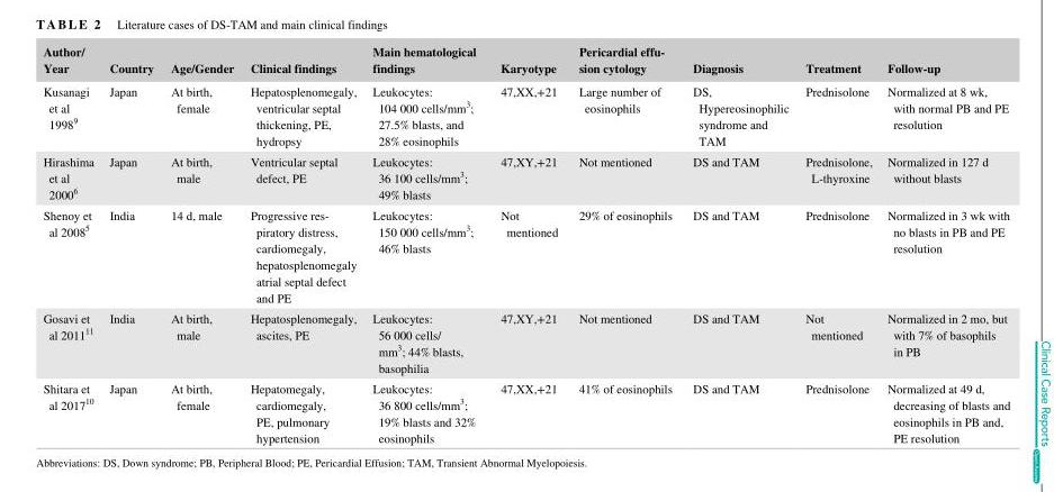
<table><thead><tr><td>Author/ Year</td><td>Country</td><td>Age/Gender</td><td>Clinical findings</td><td>Main hematological findings</td><td>Karyotype</td><td>Pericardial effu- sion cytology</td><td>Diagnosis</td><td>Treatment</td><td>Follow‐up</td></tr></thead><tbody><tr><td>Kusanagi et al 1998<sup>9</sup></td><td>Japan</td><td>At birth, female</td><td>Hepatosplenomegaly, ventricular septal thickening, PE, hydropsy</td><td>Leukocytes: 104 000 cells/mm<sup>3</sup>; 27.5% blasts, and 28% eosinophils</td><td>47,XX,+21</td><td>Large number of eosinophils</td><td>DS, Hypereosinophilic syndrome and TAM</td><td>Prednisolone</td><td>Normalized at 8 wk, with normal PB and PE resolution</td></tr><tr><td>Hirashima et al 2000<sup>6</sup></td><td>Japan</td><td>At birth, male</td><td>Ventricular septal defect, PE</td><td>Leukocytes: 36 100 cells/mm<sup>3</sup>; 49% blasts</td><td>47,XY,+21</td><td>Not mentioned</td><td>DS and TAM</td><td>Prednisolone, L‐thyroxine</td><td>Normalized in 127 d without blasts</td></tr><tr><td>Shenoy et al 2008<sup>5</sup></td><td>India</td><td>14 d, male</td><td>Progressive res- piratory distress, cardiomegaly, hepatosplenomegaly atrial septal defect and PE</td><td>Leukocytes: 150 000 cells/mm<sup>3</sup>; 46% blasts</td><td>Not mentioned</td><td>29% of eosinophils</td><td>DS and TAM</td><td>Prednisolone</td><td>Normalized in 3 wk with no blasts in PB and PE resolution</td></tr><tr><td>Gosavi et al 2011<sup>11</sup></td><td>India</td><td>At birth, male</td><td>Hepatosplenomegaly, ascites, PE</td><td>Leukocytes: 56 000 cells/ mm<sup>3</sup>; 44% blasts, basophilia</td><td>47,XY,+21</td><td>Not mentioned</td><td>DS and TAM</td><td>Not mentioned</td><td>Normalized in 2 mo, but with 7% of basophils in PB</td></tr><tr><td>Shitara et al 2017<sup>10</sup></td><td>Japan</td><td>At birth, female</td><td>Hepatomegaly, cardiomegaly, PE, pulmonary hypertension</td><td>Leukocytes: 36 800 cells/mm<sup>3</sup>; 19% blasts and 32% eosinophils</td><td>47,XX,+21</td><td>41% of eosinophils</td><td>DS and TAM</td><td>Prednisolone</td><td>Normalized at 49 d, decreasing of blasts and eosinophils in PB and, PE resolution</td></tr></tbody></table>